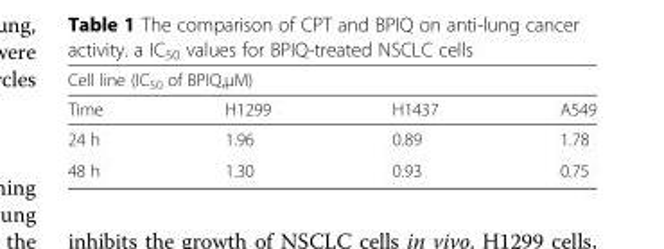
<table><thead><tr><td colspan="4">Cell line (IC<sub>50</sub> of BPIQ,μM)</td></tr><tr><td>Time</td><td>H1299</td><td>H1437</td><td>A549</td></tr></thead><tbody><tr><td>24 h</td><td>1.96</td><td>0.89</td><td>1.78</td></tr><tr><td>48 h</td><td>1.30</td><td>0.93</td><td>0.75</td></tr></tbody></table>